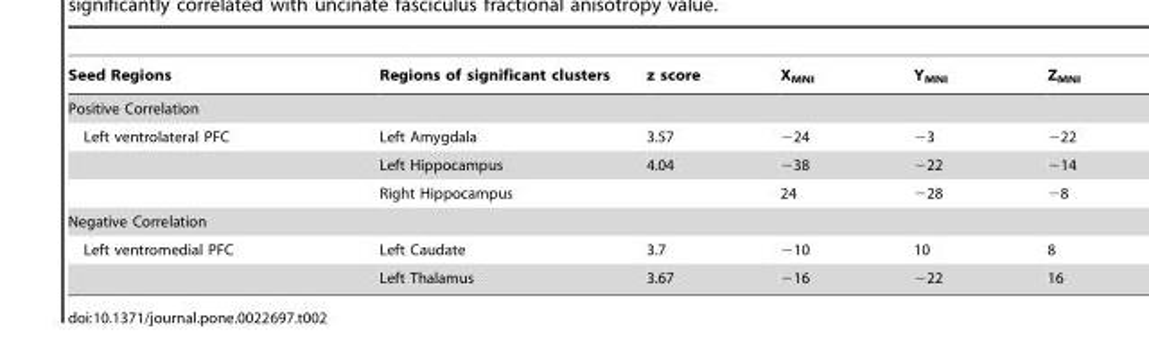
<table><thead><tr><td>Seed Regions</td><td>Regions of significant clusters</td><td>z score</td><td>X<sub>MNI</sub></td><td>Y<sub>MNI</sub></td><td>Z<sub>MNI</sub></td></tr></thead><tbody><tr><td colspan="6">Positive Correlation</td></tr><tr><td rowspan="3">Left ventrolateral PFC</td><td>Left Amygdala</td><td>3.57</td><td>−24</td><td>−3</td><td>−22</td></tr><tr><td>Left Hippocampus</td><td>4.04</td><td>−38</td><td>−22</td><td>−14</td></tr><tr><td>Right Hippocampus</td><td></td><td>24</td><td>−28</td><td>−8</td></tr><tr><td colspan="6">Negative Correlation</td></tr><tr><td rowspan="2">Left ventromedial PFC</td><td>Left Caudate</td><td>3.7</td><td>−10</td><td>10</td><td>8</td></tr><tr><td>Left Thalamus</td><td>3.67</td><td>−16</td><td>−22</td><td>16</td></tr></tbody></table>